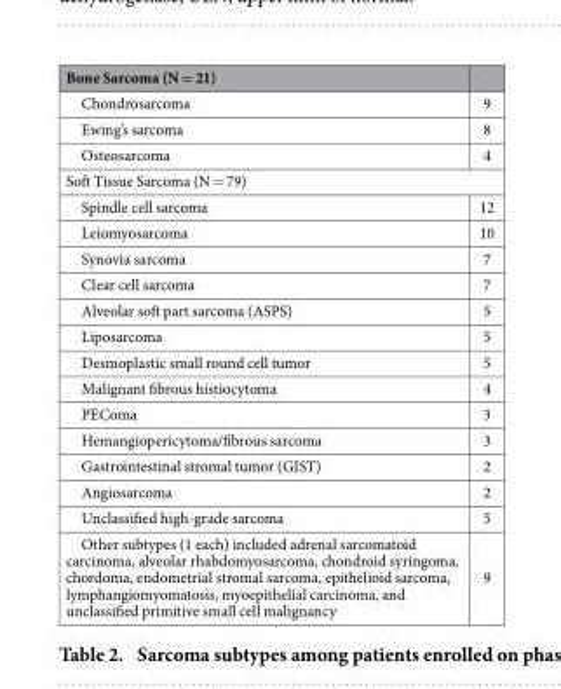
<table><thead><tr><td>Bone Sarcoma (N = 21)</td><td></td></tr></thead><tbody><tr><td>Chondrosarcoma</td><td>9</td></tr><tr><td>Ewing’s sarcoma</td><td>8</td></tr><tr><td>Osteosarcoma</td><td>4</td></tr><tr><td colspan="2">Soft Tissue Sarcoma (N = 79)</td></tr><tr><td>Spindle cell sarcoma</td><td>12</td></tr><tr><td>Leiomyosarcoma</td><td>10</td></tr><tr><td>Synovia sarcoma</td><td>7</td></tr><tr><td>Clear cell sarcoma</td><td>7</td></tr><tr><td>Alveolar soft part sarcoma (ASPS)</td><td>5</td></tr><tr><td>Liposarcoma</td><td>5</td></tr><tr><td>Desmoplastic small round cell tumor</td><td>5</td></tr><tr><td>Malignant fibrous histiocytoma</td><td>4</td></tr><tr><td>PEComa</td><td>3</td></tr><tr><td>Hemangiopericytoma/fibrous sarcoma</td><td>3</td></tr><tr><td>Gastrointestinal stromal tumor (GIST)</td><td>2</td></tr><tr><td>Angiosarcoma</td><td>2</td></tr><tr><td>Unclassified high-grade sarcoma</td><td>5</td></tr><tr><td>Other subtypes (1 each) included adrenal sarcomatoid carcinoma, alveolar rhabdomyosarcoma, chondroid syringoma, chordoma, endometrial stromal sarcoma, epithelioid sarcoma, lymphangiomyomatosis, myoepithelial carcinoma, and unclassified primitive small cell malignancy</td><td>9</td></tr></tbody></table>